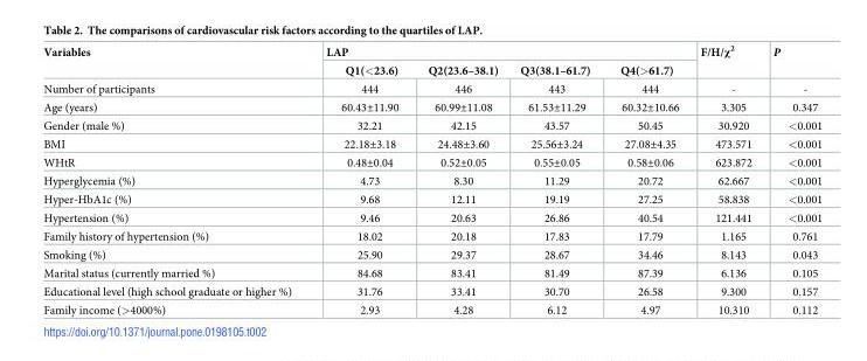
<table><thead><tr><td rowspan="3">Variables Number of participants</td><td rowspan="2" colspan="4">LAP Q1(&lt;23.6) Q2(23.6–38.1) Q3(38.1–61.7) Q4(&gt;61.7)</td><td rowspan="3">F/H/χ<sup>2</sup> -</td><td rowspan="3">P -</td></tr><tr></tr><tr><td>444</td><td>446</td><td>443</td><td>444</td></tr></thead><tbody><tr><td>Age (years)</td><td>60.43±11.90</td><td>60.99±11.08</td><td>61.53±11.29</td><td>60.32±10.66</td><td>3.305</td><td>0.347</td></tr><tr><td>Gender (male %)</td><td>32.21</td><td>42.15</td><td>43.57</td><td>50.45</td><td>30.920</td><td>&lt;0.001</td></tr><tr><td>BMI</td><td>22.18±3.18</td><td>24.48±3.60</td><td>25.56±3.24</td><td>27.08±4.35</td><td>473.571</td><td>&lt;0.001</td></tr><tr><td>WHtR</td><td>0.48±0.04</td><td>0.52±0.05</td><td>0.55±0.05</td><td>0.58±0.06</td><td>623.872</td><td>&lt;0.001</td></tr><tr><td>Hyperglycemia (%)</td><td>4.73</td><td>8.30</td><td>11.29</td><td>20.72</td><td>62.667</td><td>&lt;0.001</td></tr><tr><td>Hyper-HbA1c (%)</td><td>9.68</td><td>12.11</td><td>19.19</td><td>27.25</td><td>58.838</td><td>&lt;0.001</td></tr><tr><td>Hypertension (%)</td><td>9.46</td><td>20.63</td><td>26.86</td><td>40.54</td><td>121.441</td><td>&lt;0.001</td></tr><tr><td>Family history of hypertension (%)</td><td>18.02</td><td>20.18</td><td>17.83</td><td>17.79</td><td>1.165</td><td>0.761</td></tr><tr><td>Smoking (%)</td><td>25.90</td><td>29.37</td><td>28.67</td><td>34.46</td><td>8.143</td><td>0.043</td></tr><tr><td>Marital status (currently married %)</td><td>84.68</td><td>83.41</td><td>81.49</td><td>87.39</td><td>6.136</td><td>0.105</td></tr><tr><td>Educational level (high school graduate or higher %)</td><td>31.76</td><td>33.41</td><td>30.70</td><td>26.58</td><td>9.300</td><td>0.157</td></tr><tr><td>Family income (&gt;4000%)</td><td>2.93</td><td>4.28</td><td>6.12</td><td>4.97</td><td>10.310</td><td>0.112</td></tr></tbody></table>